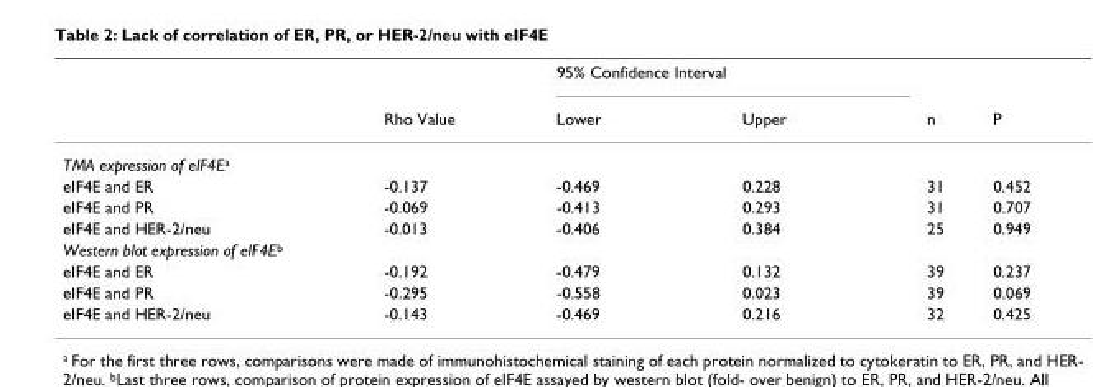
<table><thead><tr><td rowspan="2"></td><td rowspan="2">Rho Value</td><td colspan="2">95% Confidence Interval</td><td rowspan="2">n</td><td rowspan="2">P</td></tr><tr><td>Lower</td><td>Upper</td></tr></thead><tbody><tr><td colspan="6">TMA expression of eIF4E<sup>a</sup></td></tr><tr><td>eIF4E and ER</td><td>-0.137</td><td>-0.469</td><td>0.228</td><td>31</td><td>0.452</td></tr><tr><td>eIF4E and PR</td><td>-0.069</td><td>-0.413</td><td>0.293</td><td>31</td><td>0.707</td></tr><tr><td>eIF4E and HER-2/neu</td><td>-0.013</td><td>-0.406</td><td>0.384</td><td>25</td><td>0.949</td></tr><tr><td colspan="6">Western blot expression of eIF4E<sup>b</sup></td></tr><tr><td>eIF4E and ER</td><td>-0.192</td><td>-0.479</td><td>0.132</td><td>39</td><td>0.237</td></tr><tr><td>eIF4E and PR</td><td>-0.295</td><td>-0.558</td><td>0.023</td><td>39</td><td>0.069</td></tr><tr><td>eIF4E and HER-2/neu</td><td>-0.143</td><td>-0.469</td><td>0.216</td><td>32</td><td>0.425</td></tr></tbody></table>